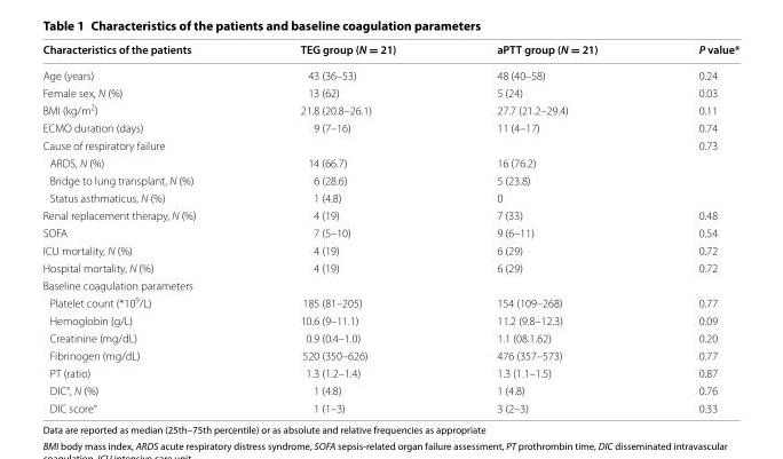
<table><thead><tr><td>Characteristics of the patients</td><td>TEG group (N = 21)</td><td>aPTT group (N = 21)</td><td>P value*</td></tr></thead><tbody><tr><td>Age (years)</td><td>43 (36–53)</td><td>48 (40–58)</td><td>0.24</td></tr><tr><td>Female sex, N (%)</td><td>13 (62)</td><td>5 (24)</td><td>0.03</td></tr><tr><td>BMI (kg/m<sup>2</sup>)</td><td>21.8 (20.8–26.1)</td><td>27.7 (21.2–29.4)</td><td>0.11</td></tr><tr><td>ECMO duration (days)</td><td>9 (7–16)</td><td>11 (4–17)</td><td>0.74</td></tr><tr><td>Cause of respiratory failure</td><td></td><td></td><td>0.73</td></tr><tr><td>ARDS, N (%)</td><td>14 (66.7)</td><td>16 (76.2)</td><td></td></tr><tr><td>Bridge to lung transplant, N (%)</td><td>6 (28.6)</td><td>5 (23.8)</td><td></td></tr><tr><td>Status asthmaticus, N (%)</td><td>1 (4.8)</td><td>0</td><td></td></tr><tr><td>Renal replacement therapy, N (%)</td><td>4 (19)</td><td>7 (33)</td><td>0.48</td></tr><tr><td>SOFA</td><td>7 (5–10)</td><td>9 (6–11)</td><td>0.54</td></tr><tr><td>ICU mortality, N (%)</td><td>4 (19)</td><td>6 (29)</td><td>0.72</td></tr><tr><td>Hospital mortality, N (%)</td><td>4 (19)</td><td>6 (29)</td><td>0.72</td></tr><tr><td colspan="4">Baseline coagulation parameters</td></tr><tr><td>Platelet count (*10<sup>9</sup>/L)</td><td>185 (81–205)</td><td>154 (109–268)</td><td>0.77</td></tr><tr><td>Hemoglobin (g/L)</td><td>10.6 (9–11.1)</td><td>11.2 (9.8–12.3)</td><td>0.09</td></tr><tr><td>Creatinine (mg/dL)</td><td>0.9 (0.4–1.0)</td><td>1.1 (08.1.62)</td><td>0.20</td></tr><tr><td>Fibrinogen (mg/dL)</td><td>520 (350–626)</td><td>476 (357–573)</td><td>0.77</td></tr><tr><td>PT (ratio)</td><td>1.3 (1.2–1.4)</td><td>1.3 (1.1–1.5)</td><td>0.87</td></tr><tr><td>DIC°, N (%)</td><td>1 (4.8)</td><td>1 (4.8)</td><td>0.76</td></tr><tr><td>DIC score°</td><td>1 (1–3)</td><td>3 (2–3)</td><td>0.33</td></tr></tbody></table>